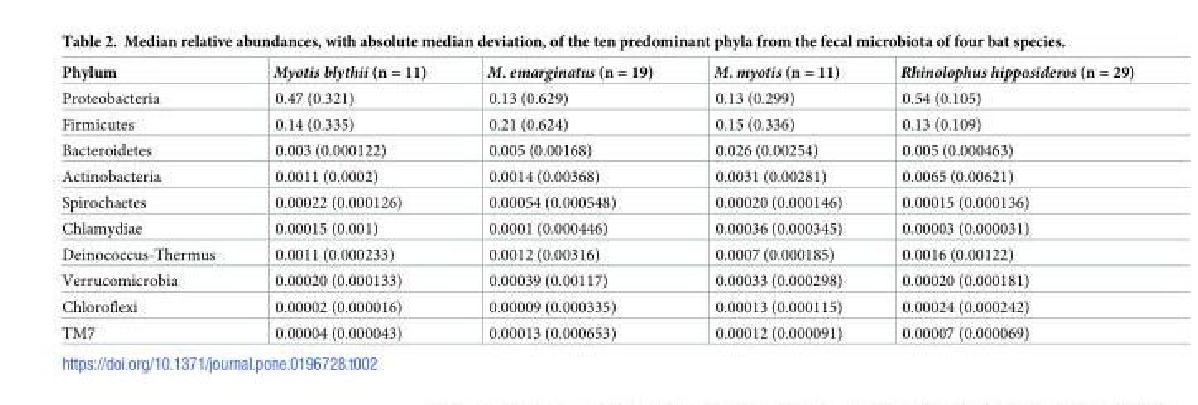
<table><thead><tr><td>Phylum</td><td>Myotis blythii (n = 11)</td><td>M. emarginatus (n = 19)</td><td>M. myotis (n = 11)</td><td>Rhinolophus hipposideros (n = 29)</td></tr></thead><tbody><tr><td>Proteobacteria</td><td>0.47 (0.321)</td><td>0.13 (0.629)</td><td>0.13 (0.299)</td><td>0.54 (0.105)</td></tr><tr><td>Firmicutes</td><td>0.14 (0.335)</td><td>0.21 (0.624)</td><td>0.15 (0.336)</td><td>0.13 (0.109)</td></tr><tr><td>Bacteroidetes</td><td>0.003 (0.000122)</td><td>0.005 (0.00168)</td><td>0.026 (0.00254)</td><td>0.005 (0.000463)</td></tr><tr><td>Actinobacteria</td><td>0.0011 (0.0002)</td><td>0.0014 (0.00368)</td><td>0.0031 (0.00281)</td><td>0.0065 (0.00621)</td></tr><tr><td>Spirochaetes</td><td>0.00022 (0.000126)</td><td>0.00054 (0.000548)</td><td>0.00020 (0.000146)</td><td>0.00015 (0.000136)</td></tr><tr><td>Chlamydiae</td><td>0.00015 (0.001)</td><td>0.0001 (0.000446)</td><td>0.00036 (0.000345)</td><td>0.00003 (0.000031)</td></tr><tr><td>Deinococcus-Thermus</td><td>0.0011 (0.000233)</td><td>0.0012 (0.00316)</td><td>0.0007 (0.000185)</td><td>0.0016 (0.00122)</td></tr><tr><td>Verrucomicrobia</td><td>0.00020 (0.000133)</td><td>0.00039 (0.00117)</td><td>0.00033 (0.000298)</td><td>0.00020 (0.000181)</td></tr><tr><td>Chloroflexi</td><td>0.00002 (0.000016)</td><td>0.00009 (0.000335)</td><td>0.00013 (0.000115)</td><td>0.00024 (0.000242)</td></tr><tr><td>TM7</td><td>0.00004 (0.000043)</td><td>0.00013 (0.000653)</td><td>0.00012 (0.000091)</td><td>0.00007 (0.000069)</td></tr></tbody></table>